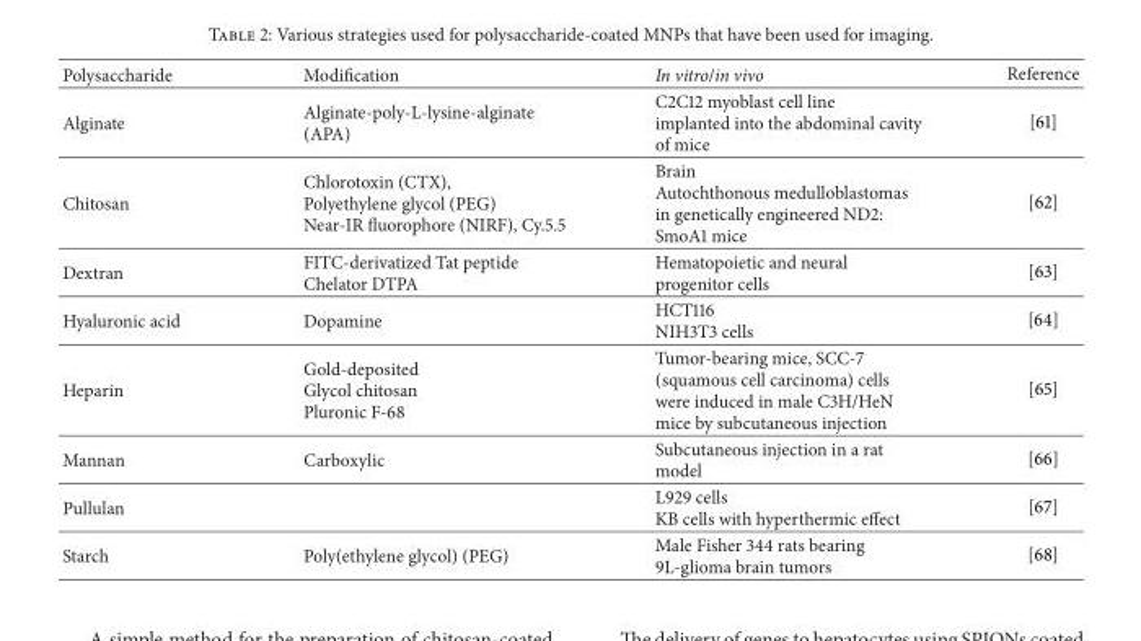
<table><thead><tr><td>Polysaccharide</td><td>Modification</td><td>In vitro/in vivo</td><td>Reference</td></tr></thead><tbody><tr><td>Alginate</td><td>Alginate-poly-L-lysine-alginate (APA)</td><td>C2C12 myoblast cell line implanted into the abdominal cavity of mice</td><td>[61]</td></tr><tr><td>Chitosan</td><td>Chlorotoxin (CTX), Polyethylene glycol (PEG) Near-IR fluorophore (NIRF), Cy.5.5</td><td>Brain Autochthonous medulloblastomas in genetically engineered ND2: SmoA1 mice</td><td>[62]</td></tr><tr><td>Dextran</td><td>FITC-derivatized Tat peptide Chelator DTPA</td><td>Hematopoietic and neural progenitor cells</td><td>[63]</td></tr><tr><td>Hyaluronic acid</td><td>Dopamine</td><td>HCT116 NIH3T3 cells</td><td>[64]</td></tr><tr><td>Heparin</td><td>Gold-deposited Glycol chitosan Pluronic F-68</td><td>Tumor-bearing mice, SCC-7 (squamous cell carcinoma) cells were induced in male C3H/HeN mice by subcutaneous injection</td><td>[65]</td></tr><tr><td>Mannan</td><td>Carboxylic</td><td>Subcutaneous injection in a rat model</td><td>[66]</td></tr><tr><td>Pullulan</td><td></td><td>L929 cells KB cells with hyperthermic effect</td><td>[67]</td></tr><tr><td>Starch</td><td>Poly(ethylene glycol) (PEG)</td><td>Male Fisher 344 rats bearing 9L-glioma brain tumors</td><td>[68]</td></tr></tbody></table>